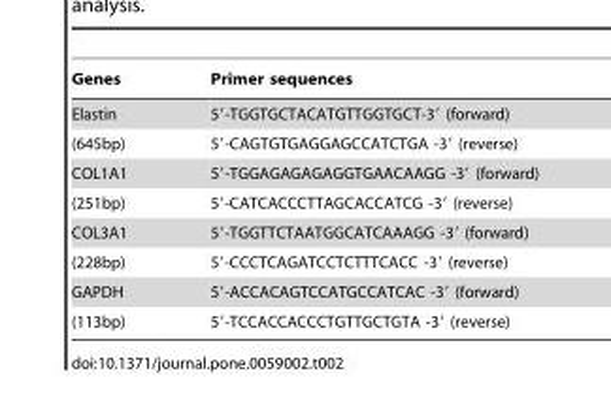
<table><thead><tr><td>Genes</td><td>Primer sequences</td></tr></thead><tbody><tr><td>Elastin</td><td>5′-TGGTGCTACATGTTGGTGCT-3′ (forward)</td></tr><tr><td>(645bp)</td><td>5′-CAGTGTGAGGAGCCATCTGA -3′ (reverse)</td></tr><tr><td>COL1A1</td><td>5′-TGGAGAGAGAGGTGAACAAGG -3′ (forward)</td></tr><tr><td>(251bp)</td><td>5′-CATCACCCTTAGCACCATCG -3′ (reverse)</td></tr><tr><td>COL3A1</td><td>5′-TGGTTCTAATGGCATCAAAGG -3′ (forward)</td></tr><tr><td>(228bp)</td><td>5′-CCCTCAGATCCTCTTTCACC -3′ (reverse)</td></tr><tr><td>GAPDH</td><td>5′-ACCACAGTCCATGCCATCAC -3′ (forward)</td></tr><tr><td>(113bp)</td><td>5′-TCCACCACCCTGTTGCTGTA -3′ (reverse)</td></tr></tbody></table>